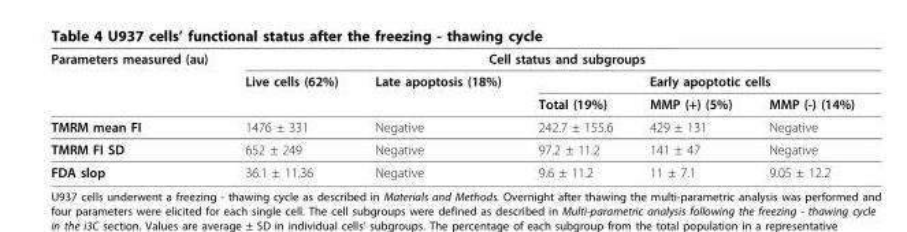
<table><thead><tr><td rowspan="3">Parameters measured (au)</td><td rowspan="3">Live cells (62%)</td><td colspan="3">Cell status and subgroups</td><td></td></tr><tr><td rowspan="2">Late apoptosis (18%)</td><td colspan="3">Early apoptotic cells</td></tr><tr><td>Total (19%)</td><td>MMP (+) (5%)</td><td>MMP (-) (14%)</td></tr></thead><tbody><tr><td>TMRM mean FI</td><td>1476 ± 331</td><td>Negative</td><td>242.7 ± 155.6</td><td>429 ± 131</td><td>Negative</td></tr><tr><td>TMRM FI SD</td><td>652 ± 249</td><td>Negative</td><td>97.2 ± 11.2</td><td>141 ± 47</td><td>Negative</td></tr><tr><td>FDA slop</td><td>36.1 ± 11.36</td><td>Negative</td><td>9.6 ± 11.2</td><td>11 ± 7.1</td><td>9.05 ± 12.2</td></tr></tbody></table>